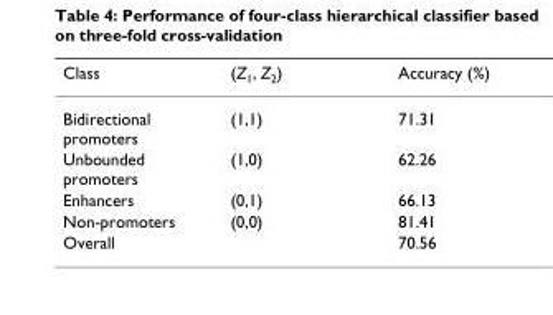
<table><thead><tr><td>Class</td><td>(Z<sub>1</sub>, Z<sub>2</sub>)</td><td>Accuracy (%)</td></tr></thead><tbody><tr><td>Bidirectional promoters</td><td>(1,1)</td><td>71.31</td></tr><tr><td>Unbounded promoters</td><td>(1,0)</td><td>62.26</td></tr><tr><td>Enhancers</td><td>(0,1)</td><td>66.13</td></tr><tr><td>Non-promoters</td><td>(0,0)</td><td>81.41</td></tr><tr><td>Overall</td><td></td><td>70.56</td></tr></tbody></table>